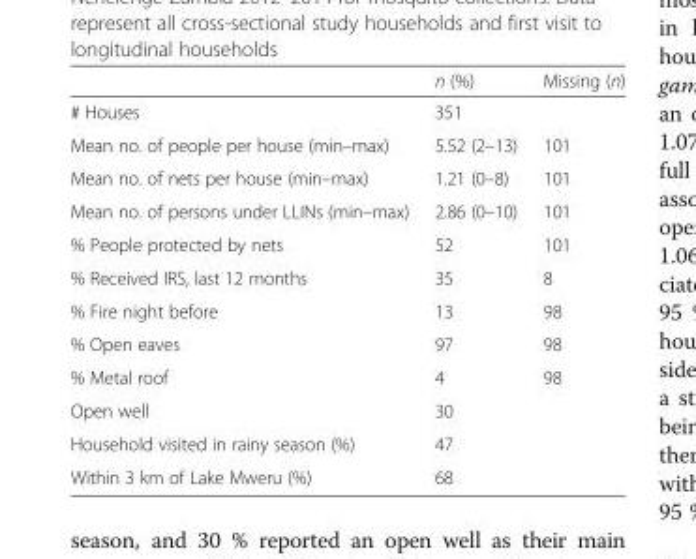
<table><thead><tr><td></td><td>n (%)</td><td>Missing (n)</td></tr></thead><tbody><tr><td># Houses</td><td>351</td><td></td></tr><tr><td>Mean no. of people per house (min–max)</td><td>5.52 (2–13)</td><td>101</td></tr><tr><td>Mean no. of nets per house (min–max)</td><td>1.21 (0–8)</td><td>101</td></tr><tr><td>Mean no. of persons under LLINs (min–max)</td><td>2.86 (0–10)</td><td>101</td></tr><tr><td>% People protected by nets</td><td>52</td><td>101</td></tr><tr><td>% Received IRS, last 12 months</td><td>35</td><td>8</td></tr><tr><td>% Fire night before</td><td>13</td><td>98</td></tr><tr><td>% Open eaves</td><td>97</td><td>98</td></tr><tr><td>% Metal roof</td><td>4</td><td>98</td></tr><tr><td>Open well</td><td>30</td><td></td></tr><tr><td>Household visited in rainy season (%)</td><td>47</td><td></td></tr><tr><td>Within 3 km of Lake Mweru (%)</td><td>68</td><td></td></tr></tbody></table>